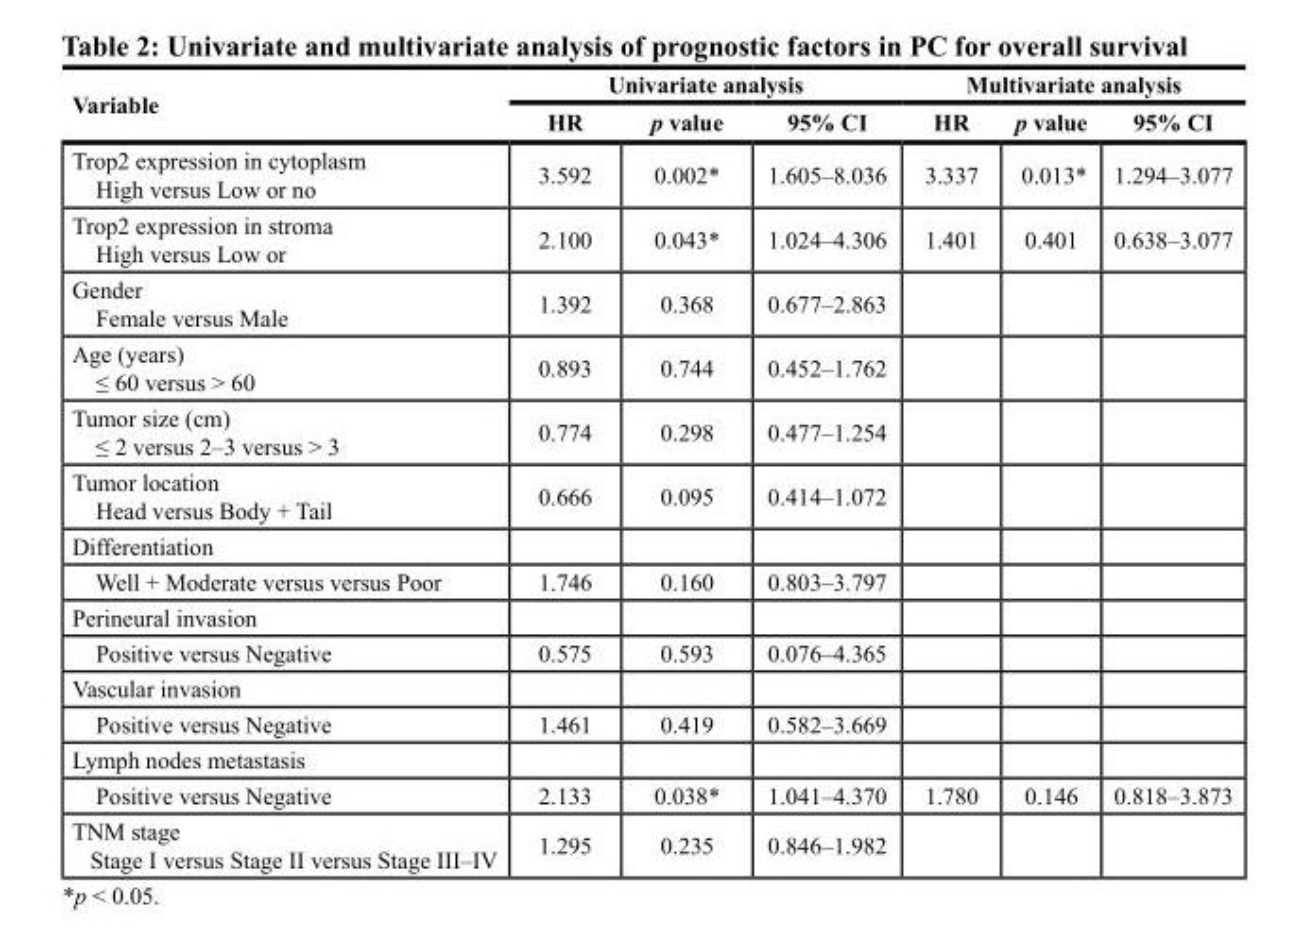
<table><thead><tr><td rowspan="2">Variable</td><td colspan="3">univariate analysis</td><td colspan="3">Multivariate analysis</td></tr><tr><td>Hr</td><td>p value</td><td>95% cI</td><td>Hr</td><td>p value</td><td>95% cI</td></tr></thead><tbody><tr><td>Trop2 expression in cytoplasm High versus Low or no</td><td>3.592</td><td>0.002*</td><td>1.605–8.036</td><td>3.337</td><td>0.013*</td><td>1.294–3.077</td></tr><tr><td>Trop2 expression in stroma High versus Low or</td><td>2.100</td><td>0.043*</td><td>1.024–4.306</td><td>1.401</td><td>0.401</td><td>0.638–3.077</td></tr><tr><td>Gender Female versus Male</td><td>1.392</td><td>0.368</td><td>0.677–2.863</td><td></td><td></td><td></td></tr><tr><td>Age (years) ≤ 60 versus &gt; 60</td><td>0.893</td><td>0.744</td><td>0.452–1.762</td><td></td><td></td><td></td></tr><tr><td>Tumor size (cm) ≤ 2 versus 2–3 versus &gt; 3</td><td>0.774</td><td>0.298</td><td>0.477–1.254</td><td></td><td></td><td></td></tr><tr><td>Tumor location Head versus Body + Tail</td><td>0.666</td><td>0.095</td><td>0.414–1.072</td><td></td><td></td><td></td></tr><tr><td colspan="7">Differentiation</td></tr><tr><td>Well + Moderate versus versus Poor</td><td>1.746</td><td>0.160</td><td>0.803–3.797</td><td></td><td></td><td></td></tr><tr><td colspan="7">Perineural invasion</td></tr><tr><td>Positive versus Negative</td><td>0.575</td><td>0.593</td><td>0.076–4.365</td><td></td><td></td><td></td></tr><tr><td colspan="7">Vascular invasion</td></tr><tr><td>Positive versus Negative</td><td>1.461</td><td>0.419</td><td>0.582–3.669</td><td></td><td></td><td></td></tr><tr><td colspan="7">Lymph nodes metastasis</td></tr><tr><td>Positive versus Negative</td><td>2.133</td><td>0.038*</td><td>1.041–4.370</td><td>1.780</td><td>0.146</td><td>0.818–3.873</td></tr><tr><td>TNM stage Stage I versus Stage II versus Stage III–IV</td><td>1.295</td><td>0.235</td><td>0.846–1.982</td><td></td><td></td><td></td></tr></tbody></table>